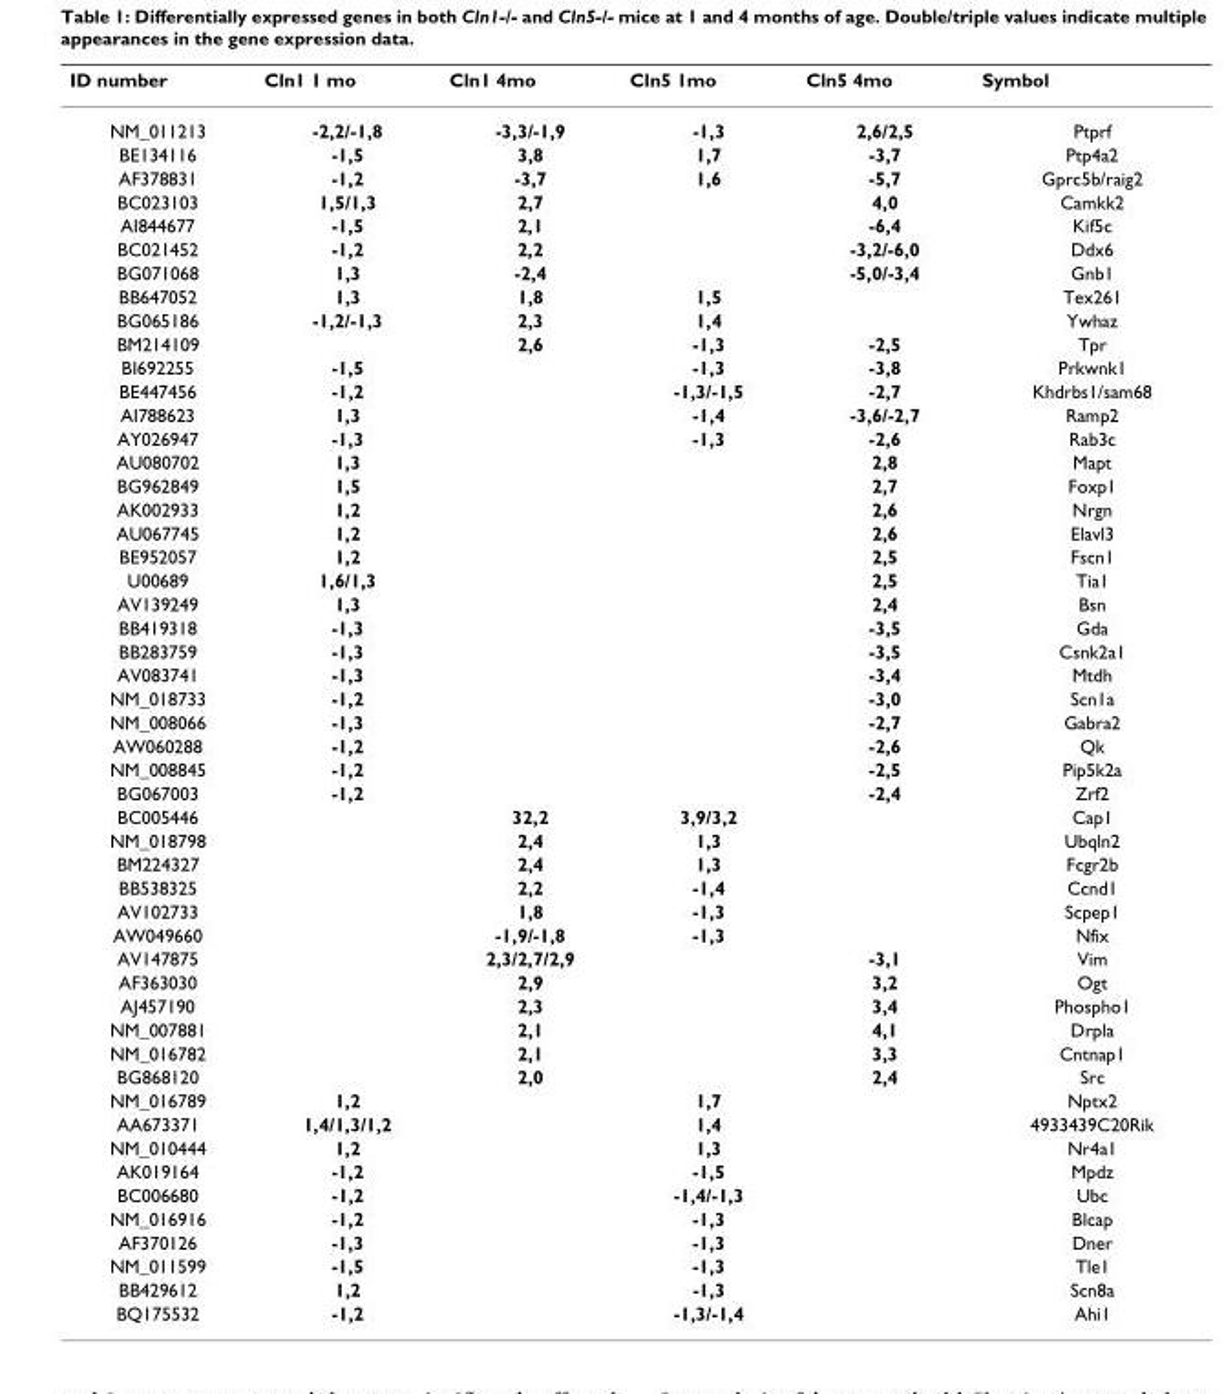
<table><thead><tr><td>ID number</td><td>Cln1 1 mo</td><td>Cln1 4mo</td><td>Cln5 1mo</td><td>Cln5 4mo</td><td>Symbol</td></tr></thead><tbody><tr><td>NM_011213</td><td>-2,2/-1,8</td><td>-3,3/-1,9</td><td>-1,3</td><td>2,6/2,5</td><td>Ptprf</td></tr><tr><td>BE134116</td><td>-1,5</td><td>3,8</td><td>1,7</td><td>-3,7</td><td>Ptp4a2</td></tr><tr><td>AF378831</td><td>-1,2</td><td>-3,7</td><td>1,6</td><td>-5,7</td><td>Gprc5b/raig2</td></tr><tr><td>BC023103</td><td>1,5/1,3</td><td>2,7</td><td></td><td>4,0</td><td>Camkk2</td></tr><tr><td>AI844677</td><td>-1,5</td><td>2,1</td><td></td><td>-6,4</td><td>Kif5c</td></tr><tr><td>BC021452</td><td>-1,2</td><td>2,2</td><td></td><td>-3,2/-6,0</td><td>Ddx6</td></tr><tr><td>BG071068</td><td>1,3</td><td>-2,4</td><td></td><td>-5,0/-3,4</td><td>Gnb1</td></tr><tr><td>BB647052</td><td>1,3</td><td>1,8</td><td>1,5</td><td></td><td>Tex261</td></tr><tr><td>BG065186</td><td>-1,2/-1,3</td><td>2,3</td><td>1,4</td><td></td><td>Ywhaz</td></tr><tr><td>BM214109</td><td></td><td>2,6</td><td>-1,3</td><td>-2,5</td><td>Tpr</td></tr><tr><td>BI692255</td><td>-1,5</td><td></td><td>-1,3</td><td>-3,8</td><td>Prkwnk1</td></tr><tr><td>BE447456</td><td>-1,2</td><td></td><td>-1,3/-1,5</td><td>-2,7</td><td>Khdrbs1/sam68</td></tr><tr><td>AI788623</td><td>1,3</td><td></td><td>-1,4</td><td>-3,6/-2,7</td><td>Ramp2</td></tr><tr><td>AY026947</td><td>-1,3</td><td></td><td>-1,3</td><td>-2,6</td><td>Rab3c</td></tr><tr><td>AU080702</td><td>1,3</td><td></td><td></td><td>2,8</td><td>Mapt</td></tr><tr><td>BG962849</td><td>1,5</td><td></td><td></td><td>2,7</td><td>Foxp1</td></tr><tr><td>AK002933</td><td>1,2</td><td></td><td></td><td>2,6</td><td>Nrgn</td></tr><tr><td>AU067745</td><td>1,2</td><td></td><td></td><td>2,6</td><td>Elavl3</td></tr><tr><td>BE952057</td><td>1,2</td><td></td><td></td><td>2,5</td><td>Fscn1</td></tr><tr><td>U00689</td><td>1,6/1,3</td><td></td><td></td><td>2,5</td><td>Tia1</td></tr><tr><td>AV139249</td><td>1,3</td><td></td><td></td><td>2,4</td><td>Bsn</td></tr><tr><td>BB419318</td><td>-1,3</td><td></td><td></td><td>-3,5</td><td>Gda</td></tr><tr><td>BB283759</td><td>-1,3</td><td></td><td></td><td>-3,5</td><td>Csnk2a1</td></tr><tr><td>AV083741</td><td>-1,3</td><td></td><td></td><td>-3,4</td><td>Mtdh</td></tr><tr><td>NM_018733</td><td>-1,2</td><td></td><td></td><td>-3,0</td><td>Scn1a</td></tr><tr><td>NM_008066</td><td>-1,3</td><td></td><td></td><td>-2,7</td><td>Gabra2</td></tr><tr><td>AW060288</td><td>-1,2</td><td></td><td></td><td>-2,6</td><td>Qk</td></tr><tr><td>NM_008845</td><td>-1,2</td><td></td><td></td><td>-2,5</td><td>Pip5k2a</td></tr><tr><td>BG067003</td><td>-1,2</td><td></td><td></td><td>-2,4</td><td>Zrf2</td></tr><tr><td>BC005446</td><td></td><td>32,2</td><td>3,9/3,2</td><td></td><td>Cap1</td></tr><tr><td>NM_018798</td><td></td><td>2,4</td><td>1,3</td><td></td><td>Ubqln2</td></tr><tr><td>BM224327</td><td></td><td>2,4</td><td>1,3</td><td></td><td>Fcgr2b</td></tr><tr><td>BB538325</td><td></td><td>2,2</td><td>-1,4</td><td></td><td>Ccnd1</td></tr><tr><td>AV102733</td><td></td><td>1,8</td><td>-1,3</td><td></td><td>Scpep1</td></tr><tr><td>AW049660</td><td></td><td>-1,9/-1,8</td><td>-1,3</td><td></td><td>Nfix</td></tr><tr><td>AV147875</td><td></td><td>2,3/2,7/2,9</td><td></td><td>-3,1</td><td>Vim</td></tr><tr><td>AF363030</td><td></td><td>2,9</td><td></td><td>3,2</td><td>Ogt</td></tr><tr><td>AJ457190</td><td></td><td>2,3</td><td></td><td>3,4</td><td>Phospho1</td></tr><tr><td>NM_007881</td><td></td><td>2,1</td><td></td><td>4,1</td><td>Drpla</td></tr><tr><td>NM_016782</td><td></td><td>2,1</td><td></td><td>3,3</td><td>Cntnap1</td></tr><tr><td>BG868120</td><td></td><td>2,0</td><td></td><td>2,4</td><td>Src</td></tr><tr><td>NM_016789</td><td>1,2</td><td></td><td>1,7</td><td></td><td>Nptx2</td></tr><tr><td>AA673371</td><td>1,4/1,3/1,2</td><td></td><td>1,4</td><td></td><td>4933439C20Rik</td></tr><tr><td>NM_010444</td><td>1,2</td><td></td><td>1,3</td><td></td><td>Nr4a1</td></tr><tr><td>AK019164</td><td>-1,2</td><td></td><td>-1,5</td><td></td><td>Mpdz</td></tr><tr><td>BC006680</td><td>-1,2</td><td></td><td>-1,4/-1,3</td><td></td><td>Ubc</td></tr><tr><td>NM_016916</td><td>-1,2</td><td></td><td>-1,3</td><td></td><td>Blcap</td></tr><tr><td>AF370126</td><td>-1,3</td><td></td><td>-1,3</td><td></td><td>Dner</td></tr><tr><td>NM_011599</td><td>-1,5</td><td></td><td>-1,3</td><td></td><td>Tle1</td></tr><tr><td>BB429612</td><td>1,2</td><td></td><td>-1,3</td><td></td><td>Scn8a</td></tr><tr><td>BQ175532</td><td>-1,2</td><td></td><td>-1,3/-1,4</td><td></td><td>Ahi1</td></tr></tbody></table>